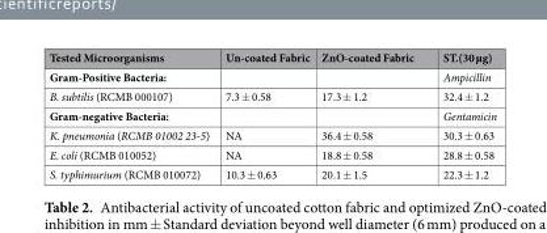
<table><thead><tr><td>Tested Microorganisms</td><td>Un-coated Fabric</td><td>ZnO-coated Fabric</td><td>ST.(30 µg)</td></tr></thead><tbody><tr><td>Gram-Positive Bacteria:</td><td></td><td></td><td>Ampicillin</td></tr><tr><td>B. subtilis (RCMB 000107)</td><td>7.3 ± 0.58</td><td>17.3 ± 1.2</td><td>32.4 ± 1.2</td></tr><tr><td>Gram-negative Bacteria:</td><td></td><td></td><td>Gentamicin</td></tr><tr><td>K. pneumonia (RCMB 01002 23-5)</td><td>NA</td><td>36.4 ± 0.58</td><td>30.3 ± 0.63</td></tr><tr><td>E. coli (RCMB 010052)</td><td>NA</td><td>18.8 ± 0.58</td><td>28.8 ± 0.58</td></tr><tr><td>S. typhimurium (RCMB 010072)</td><td>10.3 ± 0.63</td><td>20.1 ± 1.5</td><td>22.3 ± 1.2</td></tr></tbody></table>